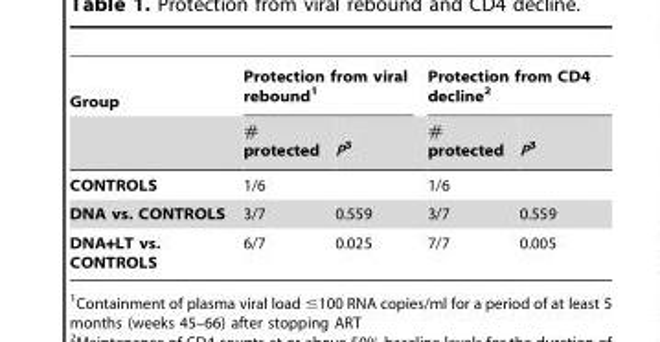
<table><thead><tr><td rowspan="2">Group</td><td colspan="2">Protection from viral rebound<sup>1</sup></td><td colspan="2">Protection from CD4 decline<sup>2</sup></td></tr><tr><td># protected</td><td>P3</td><td># protected</td><td>P3</td></tr></thead><tbody><tr><td>CONTROLS</td><td>1/6</td><td></td><td>1/6</td><td></td></tr><tr><td>DNA vs. CONTROLS</td><td>3/7</td><td>0.559</td><td>3/7</td><td>0.559</td></tr><tr><td>DNA+LT vs. CONTROLS</td><td>6/7</td><td>0.025</td><td>7/7</td><td>0.005</td></tr></tbody></table>